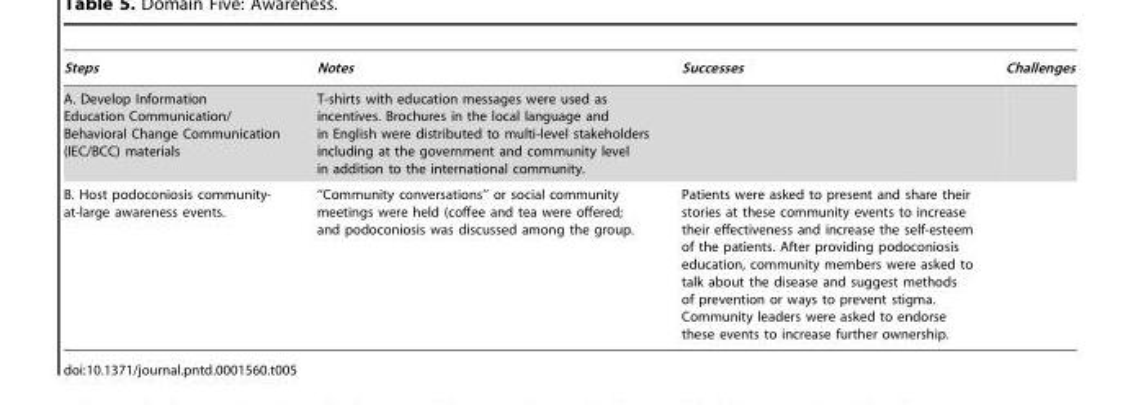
<table><thead><tr><td>Steps</td><td>Notes</td><td>Successes</td><td>Challenges</td></tr></thead><tbody><tr><td>A. Develop Information Education Communication/ Behavioral Change Communication (IEC/BCC) materials</td><td>T-shirts with education messages were used as incentives. Brochures in the local language and in English were distributed to multi-level stakeholders including at the government and community level in addition to the international community.</td><td></td><td></td></tr><tr><td>B. Host podoconiosis community- at-large awareness events.</td><td>‘‘Community conversations’’ or social community meetings were held (coffee and tea were offered; and podoconiosis was discussed among the group.</td><td>Patients were asked to present and share their stories at these community events to increase their effectiveness and increase the self-esteem of the patients. After providing podoconiosis education, community members were asked to talk about the disease and suggest methods of prevention or ways to prevent stigma. Community leaders were asked to endorse these events to increase further ownership.</td><td></td></tr></tbody></table>